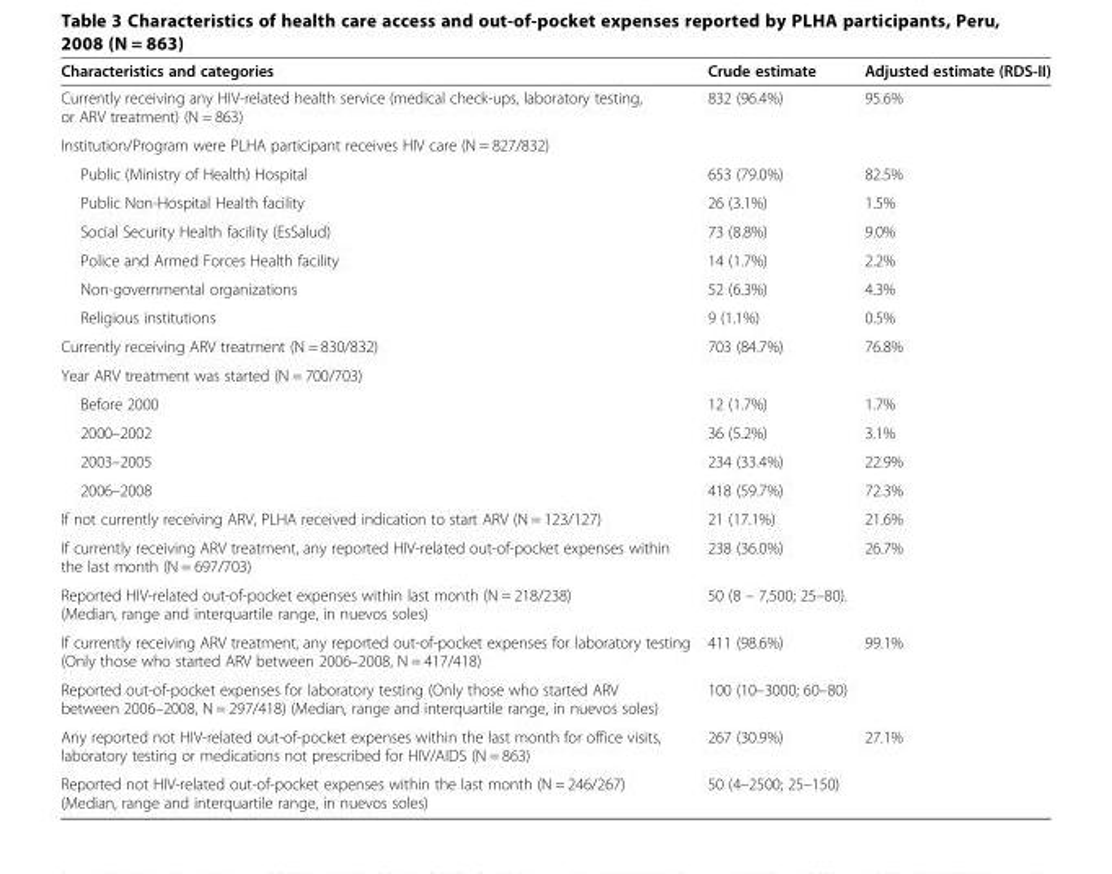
<table><thead><tr><td>Characteristics and categories</td><td>Crude estimate</td><td>Adjusted estimate (RDS-II)</td></tr></thead><tbody><tr><td>Currently receiving any HIV-related health service (medical check-ups, laboratory testing, or ARV treatment) (N = 863)</td><td>832 (96.4%)</td><td>95.6%</td></tr><tr><td colspan="3">Institution/Program were PLHA participant receives HIV care (N = 827/832)</td></tr><tr><td>Public (Ministry of Health) Hospital</td><td>653 (79.0%)</td><td>82.5%</td></tr><tr><td>Public Non-Hospital Health facility</td><td>26 (3.1%)</td><td>1.5%</td></tr><tr><td>Social Security Health facility (EsSalud)</td><td>73 (8.8%)</td><td>9.0%</td></tr><tr><td>Police and Armed Forces Health facility</td><td>14 (1.7%)</td><td>2.2%</td></tr><tr><td>Non-governmental organizations</td><td>52 (6.3%)</td><td>4.3%</td></tr><tr><td>Religious institutions</td><td>9 (1.1%)</td><td>0.5%</td></tr><tr><td>Currently receiving ARV treatment (N = 830/832)</td><td>703 (84.7%)</td><td>76.8%</td></tr><tr><td colspan="3">Year ARV treatment was started (N = 700/703)</td></tr><tr><td>Before 2000</td><td>12 (1.7%)</td><td>1.7%</td></tr><tr><td>2000–2002</td><td>36 (5.2%)</td><td>3.1%</td></tr><tr><td>2003–2005</td><td>234 (33.4%)</td><td>22.9%</td></tr><tr><td>2006–2008</td><td>418 (59.7%)</td><td>72.3%</td></tr><tr><td>If not currently receiving ARV, PLHA received indication to start ARV (N = 123/127)</td><td>21 (17.1%)</td><td>21.6%</td></tr><tr><td>If currently receiving ARV treatment, any reported HIV-related out-of-pocket expenses within the last month (N = 697/703)</td><td>238 (36.0%)</td><td>26.7%</td></tr><tr><td>Reported HIV-related out-of-pocket expenses within last month (N = 218/238) (Median, range and interquartile range, in nuevos soles)</td><td>50 (8 – 7,500; 25–80).</td><td></td></tr><tr><td>If currently receiving ARV treatment, any reported out-of-pocket expenses for laboratory testing (Only those who started ARV between 2006–2008, N = 417/418)</td><td>411 (98.6%)</td><td>99.1%</td></tr><tr><td>Reported out-of-pocket expenses for laboratory testing (Only those who started ARV between 2006–2008, N = 297/418) (Median, range and interquartile range, in nuevos soles)</td><td>100 (10–3000; 60–80)</td><td></td></tr><tr><td>Any reported not HIV-related out-of-pocket expenses within the last month for office visits, laboratory testing or medications not prescribed for HIV/AIDS (N = 863)</td><td>267 (30.9%)</td><td>27.1%</td></tr><tr><td>Reported not HIV-related out-of-pocket expenses within the last month (N = 246/267) (Median, range and interquartile range, in nuevos soles)</td><td>50 (4–2500; 25–150)</td><td></td></tr></tbody></table>